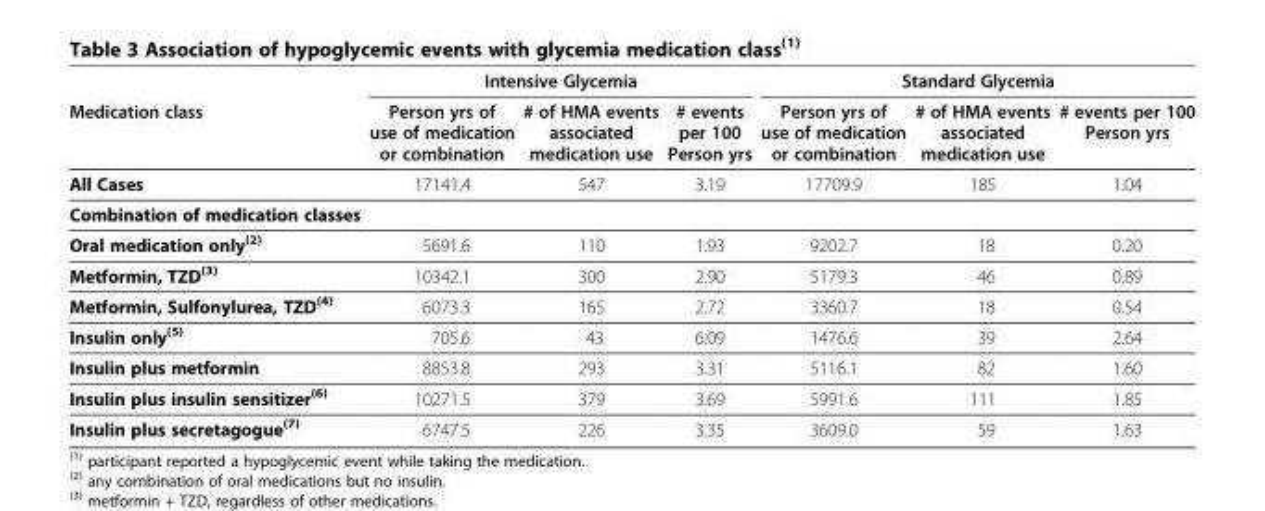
<table><thead><tr><td rowspan="2">Medication class</td><td colspan="3">Intensive Glycemia</td><td colspan="3">Standard Glycemia</td></tr><tr><td>Person yrs of use of medication or combination</td><td># of HMA events associated medication use</td><td># events per 100 Person yrs</td><td>Person yrs of use of medication or combination</td><td># of HMA events associated medication use</td><td># events per 100 Person yrs</td></tr></thead><tbody><tr><td>All Cases</td><td>17141.4</td><td>547</td><td>3.19</td><td>17709.9</td><td>185</td><td>1.04</td></tr><tr><td colspan="7">Combination of medication classes</td></tr><tr><td>Oral medication only<sup>(2)</sup></td><td>5691.6</td><td>110</td><td>1.93</td><td>9202.7</td><td>18</td><td>0.20</td></tr><tr><td>Metformin, TZD<sup>(3)</sup></td><td>10342.1</td><td>300</td><td>2.90</td><td>5179.3</td><td>46</td><td>0.89</td></tr><tr><td>Metformin, Sulfonylurea, TZD<sup>(4)</sup></td><td>6073.3</td><td>165</td><td>2.72</td><td>3360.7</td><td>18</td><td>0.54</td></tr><tr><td>Insulin only<sup>(5)</sup></td><td>705.6</td><td>43</td><td>6.09</td><td>1476.6</td><td>39</td><td>2.64</td></tr><tr><td>Insulin plus metformin</td><td>8853.8</td><td>293</td><td>3.31</td><td>5116.1</td><td>82</td><td>1.60</td></tr><tr><td>Insulin plus insulin sensitizer<sup>(6)</sup></td><td>10271.5</td><td>379</td><td>3.69</td><td>5991.6</td><td>111</td><td>1.85</td></tr><tr><td>Insulin plus secretagogue<sup>(7)</sup></td><td>6747.5</td><td>226</td><td>3.35</td><td>3609.0</td><td>59</td><td>1.63</td></tr></tbody></table>